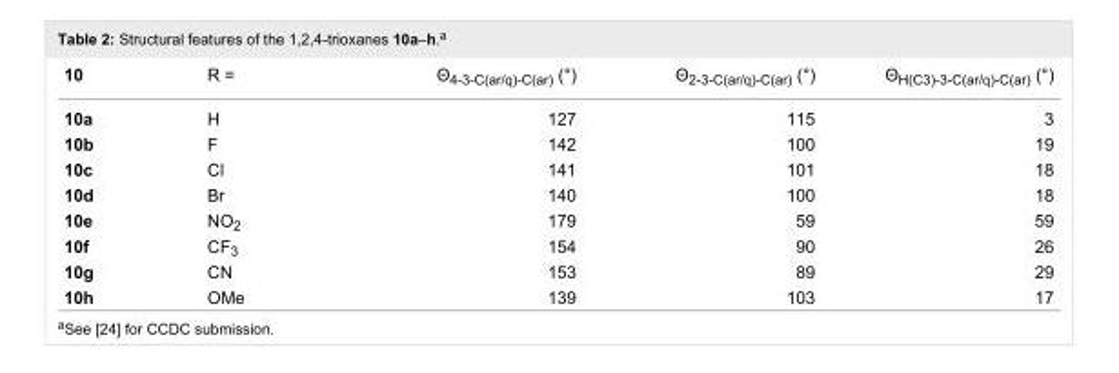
<table><tbody><tr><td>10</td><td>R =</td><td>Θ<sub>4-3-C(ar/q)-C(ar)</sub> (°)</td><td>Θ<sub>2-3-C(ar/q)-C(ar)</sub> (°)</td><td>Θ<sub>H(C3)-3-C(ar/q)-C(ar)</sub> (°)</td></tr><tr><td>10a</td><td>H</td><td>127</td><td>115</td><td>3</td></tr><tr><td>10b</td><td>F</td><td>142</td><td>100</td><td>19</td></tr><tr><td>10c</td><td>Cl</td><td>141</td><td>101</td><td>18</td></tr><tr><td>10d</td><td>Br</td><td>140</td><td>100</td><td>18</td></tr><tr><td>10e</td><td>NO<sub>2</sub></td><td>179</td><td>59</td><td>59</td></tr><tr><td>10f</td><td>CF<sub>3</sub></td><td>154</td><td>90</td><td>26</td></tr><tr><td>10g</td><td>CN</td><td>153</td><td>89</td><td>29</td></tr><tr><td>10h</td><td>OMe</td><td>139</td><td>103</td><td>17</td></tr></tbody></table>